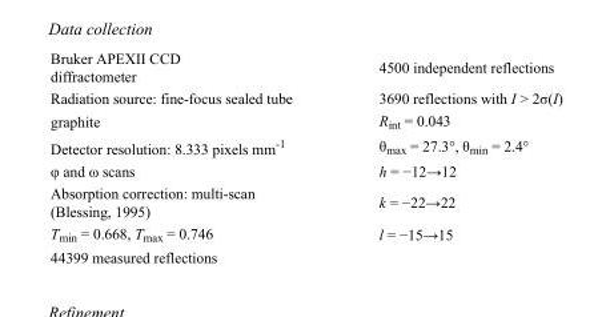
<table><tbody><tr><td>Bruker APEXII CCD diffractometer</td><td>4500 independent reflections</td></tr><tr><td>Radiation source: fine-focus sealed tube</td><td>3690 reflections with I &gt; 2σ(I)</td></tr><tr><td>graphite</td><td>R<sub>int</sub> = 0.043</td></tr><tr><td>Detector resolution: 8.333 pixels mm<sup>-1</sup></td><td>θ<sub>max</sub> = 27.3°, θ<sub>min</sub> = 2.4°</td></tr><tr><td>φ and ω scans</td><td>h = −12→12</td></tr><tr><td>Absorption correction: multi-scan (Blessing, 1995)</td><td>k = −22→22</td></tr><tr><td>T<sub>min</sub> = 0.668, T<sub>max</sub> = 0.746</td><td>l = −15→15</td></tr><tr><td>44399 measured reflections</td><td></td></tr></tbody></table>